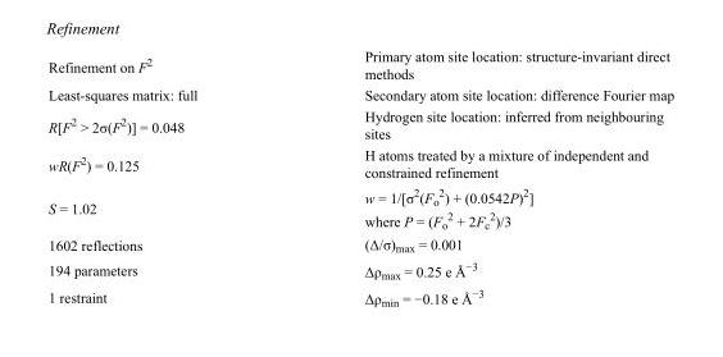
<table><tbody><tr><td>Refinement on F<sup>2</sup></td><td>Primary atom site location: structure-invariant direct methods</td></tr><tr><td>Least-squares matrix: full</td><td>Secondary atom site location: difference Fourier map</td></tr><tr><td>R[F<sup>2</sup> &gt; 2σ(F<sup>2</sup>)] = 0.048</td><td>Hydrogen site location: inferred from neighbouring sites</td></tr><tr><td>wR(F<sup>2</sup>) = 0.125</td><td>H atoms treated by a mixture of independent and constrained refinement</td></tr><tr><td>S = 1.02</td><td>w = 1/[σ<sup>2</sup>(F<sub>o</sub> <sup>2</sup>) + (0.0542P)<sup>2</sup>] where P = (F<sub>o</sub> <sup>2</sup> + 2F<sub>c</sub> <sup>2</sup>)/3</td></tr><tr><td>1602 reflections</td><td>(Δ/σ)<sub>max</sub> = 0.001</td></tr><tr><td>194 parameters</td><td>Δρ<sub>max</sub> = 0.25 e Å<sup>−3</sup></td></tr><tr><td>1 restraint</td><td>Δρ<sub>min</sub> = −0.18 e Å<sup>−3</sup></td></tr></tbody></table>